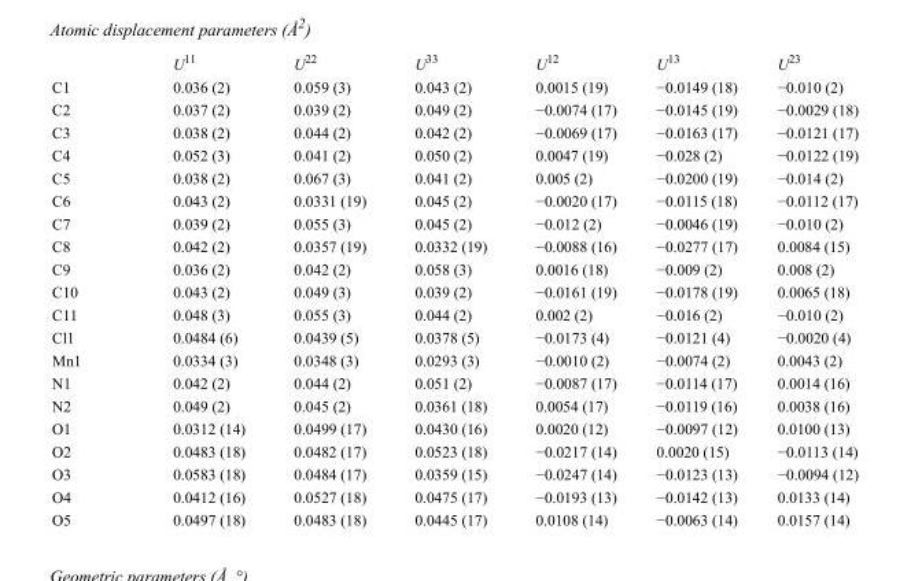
<table><thead><tr><td></td><td>U<sup>11</sup></td><td>U<sup>22</sup></td><td>U<sup>33</sup></td><td>U<sup>12</sup></td><td>U<sup>13</sup></td><td>U<sup>23</sup></td></tr></thead><tbody><tr><td>C1</td><td>0.036 (2)</td><td>0.059 (3)</td><td>0.043 (2)</td><td>0.0015 (19)</td><td>−0.0149 (18)</td><td>−0.010 (2)</td></tr><tr><td>C2</td><td>0.037 (2)</td><td>0.039 (2)</td><td>0.049 (2)</td><td>−0.0074 (17)</td><td>−0.0145 (19)</td><td>−0.0029 (18)</td></tr><tr><td>C3</td><td>0.038 (2)</td><td>0.044 (2)</td><td>0.042 (2)</td><td>−0.0069 (17)</td><td>−0.0163 (17)</td><td>−0.0121 (17)</td></tr><tr><td>C4</td><td>0.052 (3)</td><td>0.041 (2)</td><td>0.050 (2)</td><td>0.0047 (19)</td><td>−0.028 (2)</td><td>−0.0122 (19)</td></tr><tr><td>C5</td><td>0.038 (2)</td><td>0.067 (3)</td><td>0.041 (2)</td><td>0.005 (2)</td><td>−0.0200 (19)</td><td>−0.014 (2)</td></tr><tr><td>C6</td><td>0.043 (2)</td><td>0.0331 (19)</td><td>0.045 (2)</td><td>−0.0020 (17)</td><td>−0.0115 (18)</td><td>−0.0112 (17)</td></tr><tr><td>C7</td><td>0.039 (2)</td><td>0.055 (3)</td><td>0.045 (2)</td><td>−0.012 (2)</td><td>−0.0046 (19)</td><td>−0.010 (2)</td></tr><tr><td>C8</td><td>0.042 (2)</td><td>0.0357 (19)</td><td>0.0332 (19)</td><td>−0.0088 (16)</td><td>−0.0277 (17)</td><td>0.0084 (15)</td></tr><tr><td>C9</td><td>0.036 (2)</td><td>0.042 (2)</td><td>0.058 (3)</td><td>0.0016 (18)</td><td>−0.009 (2)</td><td>0.008 (2)</td></tr><tr><td>C10</td><td>0.043 (2)</td><td>0.049 (3)</td><td>0.039 (2)</td><td>−0.0161 (19)</td><td>−0.0178 (19)</td><td>0.0065 (18)</td></tr><tr><td>C11</td><td>0.048 (3)</td><td>0.055 (3)</td><td>0.044 (2)</td><td>0.002 (2)</td><td>−0.016 (2)</td><td>−0.010 (2)</td></tr><tr><td>Cl1</td><td>0.0484 (6)</td><td>0.0439 (5)</td><td>0.0378 (5)</td><td>−0.0173 (4)</td><td>−0.0121 (4)</td><td>−0.0020 (4)</td></tr><tr><td>Mn1</td><td>0.0334 (3)</td><td>0.0348 (3)</td><td>0.0293 (3)</td><td>−0.0010 (2)</td><td>−0.0074 (2)</td><td>0.0043 (2)</td></tr><tr><td>N1</td><td>0.042 (2)</td><td>0.044 (2)</td><td>0.051 (2)</td><td>−0.0087 (17)</td><td>−0.0114 (17)</td><td>0.0014 (16)</td></tr><tr><td>N2</td><td>0.049 (2)</td><td>0.045 (2)</td><td>0.0361 (18)</td><td>0.0054 (17)</td><td>−0.0119 (16)</td><td>0.0038 (16)</td></tr><tr><td>O1</td><td>0.0312 (14)</td><td>0.0499 (17)</td><td>0.0430 (16)</td><td>0.0020 (12)</td><td>−0.0097 (12)</td><td>0.0100 (13)</td></tr><tr><td>O2</td><td>0.0483 (18)</td><td>0.0482 (17)</td><td>0.0523 (18)</td><td>−0.0217 (14)</td><td>0.0020 (15)</td><td>−0.0113 (14)</td></tr><tr><td>O3</td><td>0.0583 (18)</td><td>0.0484 (17)</td><td>0.0359 (15)</td><td>−0.0247 (14)</td><td>−0.0123 (13)</td><td>−0.0094 (12)</td></tr><tr><td>O4</td><td>0.0412 (16)</td><td>0.0527 (18)</td><td>0.0475 (17)</td><td>−0.0193 (13)</td><td>−0.0142 (13)</td><td>0.0133 (14)</td></tr><tr><td>O5</td><td>0.0497 (18)</td><td>0.0483 (18)</td><td>0.0445 (17)</td><td>0.0108 (14)</td><td>−0.0063 (14)</td><td>0.0157 (14)</td></tr></tbody></table>